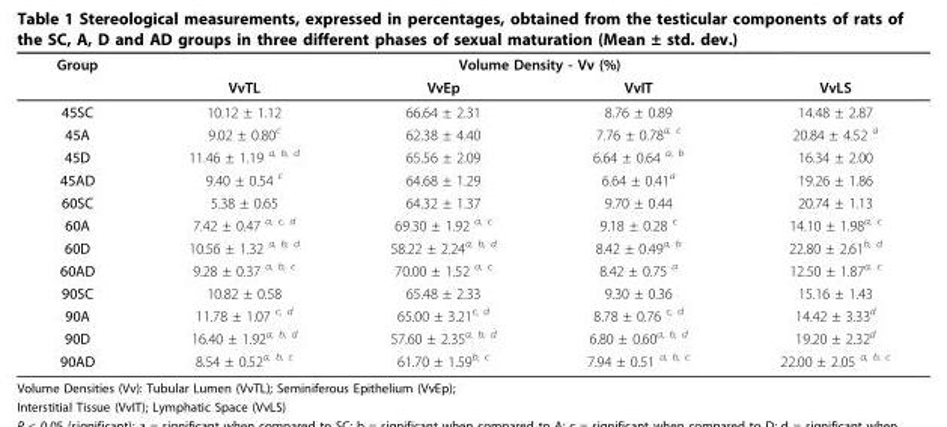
<table><thead><tr><td rowspan="2">Group</td><td colspan="4">Volume Density - Vv (%)</td></tr><tr><td>VvTL</td><td>VvEp</td><td>VvIT</td><td>VvLS</td></tr></thead><tbody><tr><td>45SC</td><td>10.12 ± 1.12</td><td>66.64 ± 2.31</td><td>8.76 ± 0.89</td><td>14.48 ± 2.87</td></tr><tr><td>45A</td><td>9.02 ± 0.80<sup>c</sup></td><td>62.38 ± 4.40</td><td>7.76 ± 0.78<sup>a, c</sup></td><td>20.84 ± 4.52 <sup>a</sup></td></tr><tr><td>45D</td><td>11.46 ± 1.19 <sup>a, b, d</sup></td><td>65.56 ± 2.09</td><td>6.64 ± 0.64 <sup>a, b</sup></td><td>16.34 ± 2.00</td></tr><tr><td>45AD</td><td>9.40 ± 0.54 <sup>c</sup></td><td>64.68 ± 1.29</td><td>6.64 ± 0.41<sup>a</sup></td><td>19.26 ± 1.86</td></tr><tr><td>60SC</td><td>5.38 ± 0.65</td><td>64.32 ± 1.37</td><td>9.70 ± 0.44</td><td>20.74 ± 1.13</td></tr><tr><td>60A</td><td>7.42 ± 0.47 <sup>a, c, d</sup></td><td>69.30 ± 1.92 <sup>a, c</sup></td><td>9.18 ± 0.28 <sup>c</sup></td><td>14.10 ± 1.98<sup>a, c</sup></td></tr><tr><td>60D</td><td>10.56 ± 1.32 <sup>a, b, d</sup></td><td>58.22 ± 2.24<sup>a, b, d</sup></td><td>8.42 ± 0.49<sup>a, b</sup></td><td>22.80 ± 2.61<sup>b, d</sup></td></tr><tr><td>60AD</td><td>9.28 ± 0.37 <sup>a, b, c</sup></td><td>70.00 ± 1.52 <sup>a, c</sup></td><td>8.42 ± 0.75 <sup>a</sup></td><td>12.50 ± 1.87<sup>a, c</sup></td></tr><tr><td>90SC</td><td>10.82 ± 0.58</td><td>65.48 ± 2.33</td><td>9.30 ± 0.36</td><td>15.16 ± 1.43</td></tr><tr><td>90A</td><td>11.78 ± 1.07 <sup>c, d</sup></td><td>65.00 ± 3.21<sup>c, d</sup></td><td>8.78 ± 0.76 <sup>c, d</sup></td><td>14.42 ± 3.33<sup>d</sup></td></tr><tr><td>90D</td><td>16.40 ± 1.92<sup>a, b, d</sup></td><td>57.60 ± 2.35<sup>a, b, d</sup></td><td>6.80 ± 0.60<sup>a, b, d</sup></td><td>19.20 ± 2.32<sup>d</sup></td></tr><tr><td>90AD</td><td>8.54 ± 0.52<sup>a, b, c</sup></td><td>61.70 ± 1.59<sup>b, c</sup></td><td>7.94 ± 0.51 <sup>a, b, c</sup></td><td>22.00 ± 2.05 <sup>a, b, c</sup></td></tr></tbody></table>